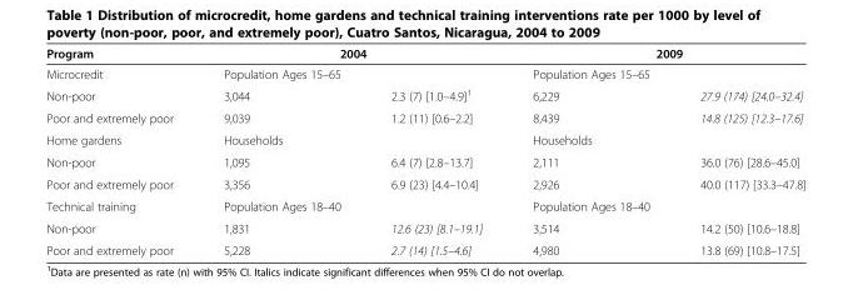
<table><thead><tr><td rowspan="2">Program Microcredit</td><td colspan="2">2004</td><td colspan="2">2009</td></tr><tr><td>Population Ages 15–65</td><td></td><td>Population Ages 15–65</td><td></td></tr></thead><tbody><tr><td>Non-poor</td><td>3,044</td><td>2.3 (7) [1.0–4.9]<sup>1</sup></td><td>6,229</td><td>27.9 (174) [24.0–32.4]</td></tr><tr><td>Poor and extremely poor</td><td>9,039</td><td>1.2 (11) [0.6–2.2]</td><td>8,439</td><td>14.8 (125) [12.3–17.6]</td></tr><tr><td>Home gardens</td><td>Households</td><td></td><td>Households</td><td></td></tr><tr><td>Non-poor</td><td>1,095</td><td>6.4 (7) [2.8–13.7]</td><td>2,111</td><td>36.0 (76) [28.6–45.0]</td></tr><tr><td>Poor and extremely poor</td><td>3,356</td><td>6.9 (23) [4.4–10.4]</td><td>2,926</td><td>40.0 (117) [33.3–47.8]</td></tr><tr><td>Technical training</td><td>Population Ages 18–40</td><td></td><td>Population Ages 18–40</td><td></td></tr><tr><td>Non-poor</td><td>1,831</td><td>12.6 (23) [8.1–19.1]</td><td>3,514</td><td>14.2 (50) [10.6–18.8]</td></tr><tr><td>Poor and extremely poor</td><td>5,228</td><td>2.7 (14) [1.5–4.6]</td><td>4,980</td><td>13.8 (69) [10.8–17.5]</td></tr></tbody></table>